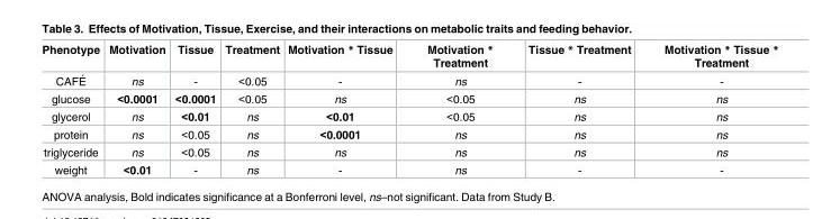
<table><thead><tr><td>Phenotype</td><td>Motivation</td><td>Tissue</td><td>Treatment</td><td>Motivation * Tissue</td><td>Motivation * Treatment</td><td>Tissue * Treatment</td><td>Motivation * Tissue * Treatment</td></tr></thead><tbody><tr><td>CAFE´</td><td>ns</td><td>-</td><td>&lt;0.05</td><td>-</td><td>ns</td><td>-</td><td>-</td></tr><tr><td>glucose</td><td>&lt;0.0001</td><td>&lt;0.0001</td><td>&lt;0.05</td><td>ns</td><td>&lt;0.05</td><td>ns</td><td>ns</td></tr><tr><td>glycerol</td><td>ns</td><td>&lt;0.01</td><td>ns</td><td>&lt;0.01</td><td>&lt;0.05</td><td>ns</td><td>ns</td></tr><tr><td>protein</td><td>ns</td><td>&lt;0.05</td><td>ns</td><td>&lt;0.0001</td><td>ns</td><td>ns</td><td>ns</td></tr><tr><td>triglyceride</td><td>ns</td><td>&lt;0.05</td><td>ns</td><td>ns</td><td>ns</td><td>ns</td><td>ns</td></tr><tr><td>weight</td><td>&lt;0.01</td><td>-</td><td>ns</td><td>-</td><td>ns</td><td>-</td><td>-</td></tr></tbody></table>